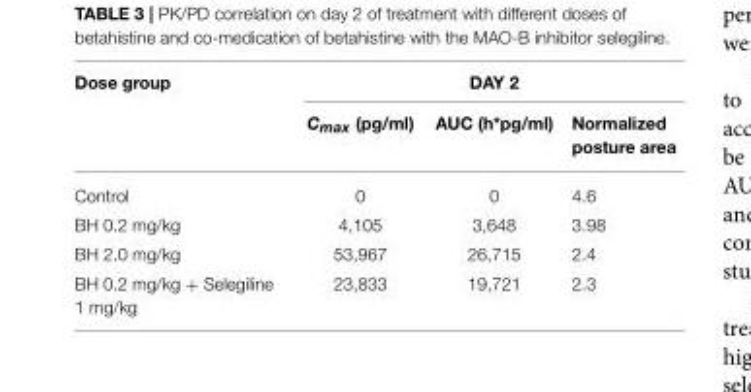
<table><thead><tr><td rowspan="2">Dose group</td><td colspan="3">DAY 2</td></tr><tr><td>C<sub>max</sub> (pg/ml)</td><td>AUC (h*pg/ml)</td><td>Normalized posture area</td></tr></thead><tbody><tr><td>Control</td><td>0</td><td>0</td><td>4.6</td></tr><tr><td>BH 0.2 mg/kg</td><td>4,105</td><td>3,648</td><td>3.98</td></tr><tr><td>BH 2.0 mg/kg</td><td>53,967</td><td>26,715</td><td>2.4</td></tr><tr><td>BH 0.2 mg/kg + Selegiline 1 mg/kg</td><td>23,833</td><td>19,721</td><td>2.3</td></tr></tbody></table>